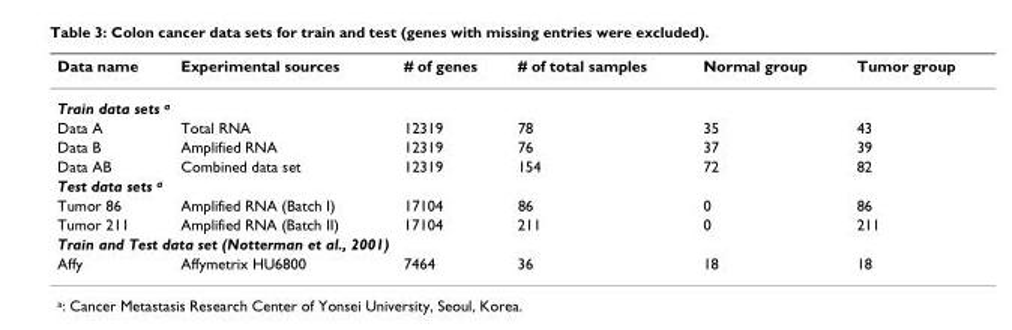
<table><thead><tr><td>Data name</td><td>Experimental sources</td><td># of genes</td><td># of total samples</td><td>Normal group</td><td>Tumor group</td></tr></thead><tbody><tr><td colspan="6">Train data sets <sup>a</sup></td></tr><tr><td>Data A</td><td>Total RNA</td><td>12319</td><td>78</td><td>35</td><td>43</td></tr><tr><td>Data B</td><td>Amplified RNA</td><td>12319</td><td>76</td><td>37</td><td>39</td></tr><tr><td>Data AB</td><td>Combined data set</td><td>12319</td><td>154</td><td>72</td><td>82</td></tr><tr><td colspan="6">Test data sets <sup>a</sup></td></tr><tr><td>Tumor 86</td><td>Amplified RNA (Batch I)</td><td>17104</td><td>86</td><td>0</td><td>86</td></tr><tr><td>Tumor 211</td><td>Amplified RNA (Batch II)</td><td>17104</td><td>211</td><td>0</td><td>211</td></tr><tr><td colspan="6">Train and Test data set (Notterman et al., 2001)</td></tr><tr><td>Affy</td><td>Affymetrix HU6800</td><td>7464</td><td>36</td><td>18</td><td>18</td></tr></tbody></table>